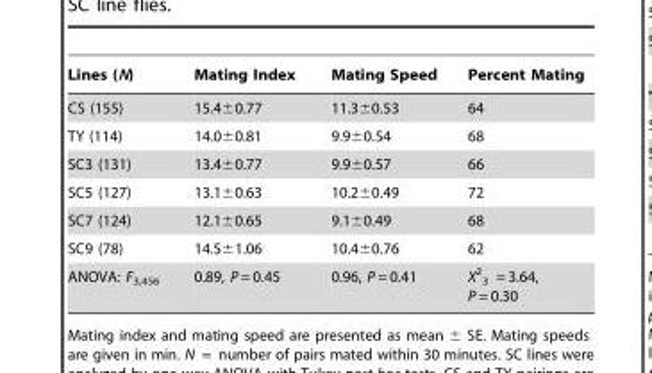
<table><thead><tr><td>Lines (N)</td><td>Mating Index</td><td>Mating Speed</td><td>Percent Mating</td></tr></thead><tbody><tr><td>CS (155)</td><td>15.4±0.77</td><td>11.3±0.53</td><td>64</td></tr><tr><td>TY (114)</td><td>14.0±0.81</td><td>9.9±0.54</td><td>68</td></tr><tr><td>SC3 (131)</td><td>13.4±0.77</td><td>9.9±0.57</td><td>66</td></tr><tr><td>SC5 (127)</td><td>13.1±0.63</td><td>10.2±0.49</td><td>72</td></tr><tr><td>SC7 (124)</td><td>12.1±0.65</td><td>9.1±0.49</td><td>68</td></tr><tr><td>SC9 (78)</td><td>14.5±1.06</td><td>10.4±0.76</td><td>62</td></tr><tr><td>ANOVA: F<sub>3,456</sub></td><td>0.89, P = 0.45</td><td>0.96, P = 0.41</td><td>X<sup>2</sup> <sub>3</sub> = 3.64, P = 0.30</td></tr></tbody></table>